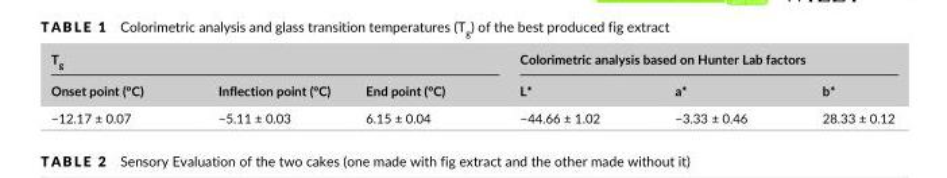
<table><thead><tr><td colspan="3">T<sub>g</sub></td><td colspan="3">Colorimetric analysis based on Hunter Lab factors</td></tr><tr><td>Onset point (°C)</td><td>Inflection point (°C)</td><td>End point (°C)</td><td>L*</td><td>a*</td><td>b*</td></tr></thead><tbody><tr><td>−12.17 ± 0.07</td><td>−5.11 ± 0.03</td><td>6.15 ± 0.04</td><td>−44.66 ± 1.02</td><td>−3.33 ± 0.46</td><td>28.33 ± 0.12</td></tr></tbody></table>